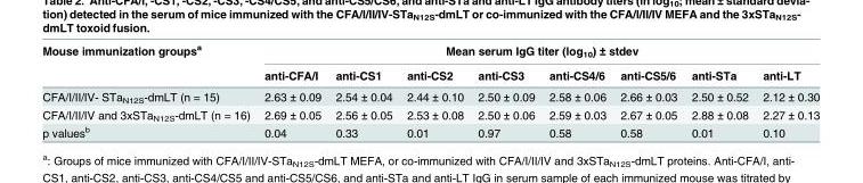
<table><thead><tr><td rowspan="2">Mouse immunization groups<sup>a</sup></td><td colspan="8">Mean serum IgG titer (log<sub>10</sub>) ± stdev</td></tr><tr><td>anti-CFA/I</td><td>anti-CS1</td><td>anti-CS2</td><td>anti-CS3</td><td>anti-CS4/6</td><td>anti-CS5/6</td><td>anti-STa</td><td>anti-LT</td></tr></thead><tbody><tr><td>CFA/I/II/IV- STa<sub>N12S</sub>-dmLT (n = 15)</td><td>2.63 ± 0.09</td><td>2.54 ± 0.04</td><td>2.44 ± 0.10</td><td>2.50 ± 0.09</td><td>2.58 ± 0.06</td><td>2.66 ± 0.03</td><td>2.50 ± 0.52</td><td>2.12 ± 0.30</td></tr><tr><td>CFA/I/II/IV and 3xSTa<sub>N12S</sub>-dmLT (n = 16)</td><td>2.69 ± 0.05</td><td>2.56 ± 0.05</td><td>2.53 ± 0.08</td><td>2.50 ± 0.06</td><td>2.59 ± 0.03</td><td>2.67 ± 0.05</td><td>2.88 ± 0.08</td><td>2.27 ± 0.13</td></tr><tr><td>p values<sup>b</sup></td><td>0.04</td><td>0.33</td><td>0.01</td><td>0.97</td><td>0.58</td><td>0.58</td><td>0.01</td><td>0.10</td></tr></tbody></table>